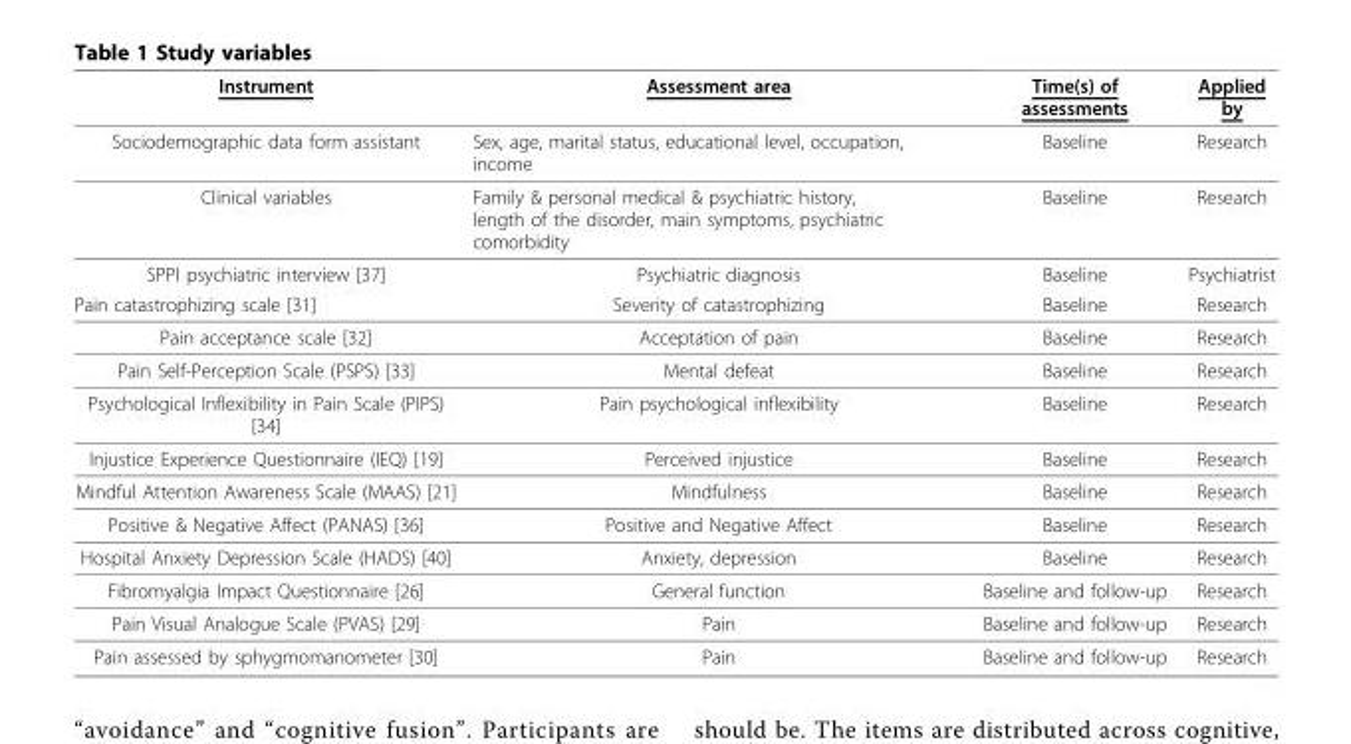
<table><thead><tr><td>Instrument</td><td>Assessment area</td><td>Time(s) of assessments</td><td>Applied by</td></tr></thead><tbody><tr><td>Sociodemographic data form assistant</td><td>Sex, age, marital status, educational level, occupation, income</td><td>Baseline</td><td>Research</td></tr><tr><td>Clinical variables</td><td>Family &amp; personal medical &amp; psychiatric history, length of the disorder, main symptoms, psychiatric comorbidity</td><td>Baseline</td><td>Research</td></tr><tr><td>SPPI psychiatric interview [37]</td><td>Psychiatric diagnosis</td><td>Baseline</td><td>Psychiatrist</td></tr><tr><td>Pain catastrophizing scale [31]</td><td>Severity of catastrophizing</td><td>Baseline</td><td>Research</td></tr><tr><td>Pain acceptance scale [32]</td><td>Acceptation of pain</td><td>Baseline</td><td>Research</td></tr><tr><td>Pain Self-Perception Scale (PSPS) [33]</td><td>Mental defeat</td><td>Baseline</td><td>Research</td></tr><tr><td>Psychological Inflexibility in Pain Scale (PIPS) [34]</td><td>Pain psychological inflexibility</td><td>Baseline</td><td>Research</td></tr><tr><td>Injustice Experience Questionnaire (IEQ) [19]</td><td>Perceived injustice</td><td>Baseline</td><td>Research</td></tr><tr><td>Mindful Attention Awareness Scale (MAAS) [21]</td><td>Mindfulness</td><td>Baseline</td><td>Research</td></tr><tr><td>Positive &amp; Negative Affect (PANAS) [36]</td><td>Positive and Negative Affect</td><td>Baseline</td><td>Research</td></tr><tr><td>Hospital Anxiety Depression Scale (HADS) [40]</td><td>Anxiety, depression</td><td>Baseline</td><td>Research</td></tr><tr><td>Fibromyalgia Impact Questionnaire [26]</td><td>General function</td><td>Baseline and follow-up</td><td>Research</td></tr><tr><td>Pain Visual Analogue Scale (PVAS) [29]</td><td>Pain</td><td>Baseline and follow-up</td><td>Research</td></tr><tr><td>Pain assessed by sphygmomanometer [30]</td><td>Pain</td><td>Baseline and follow-up</td><td>Research</td></tr></tbody></table>